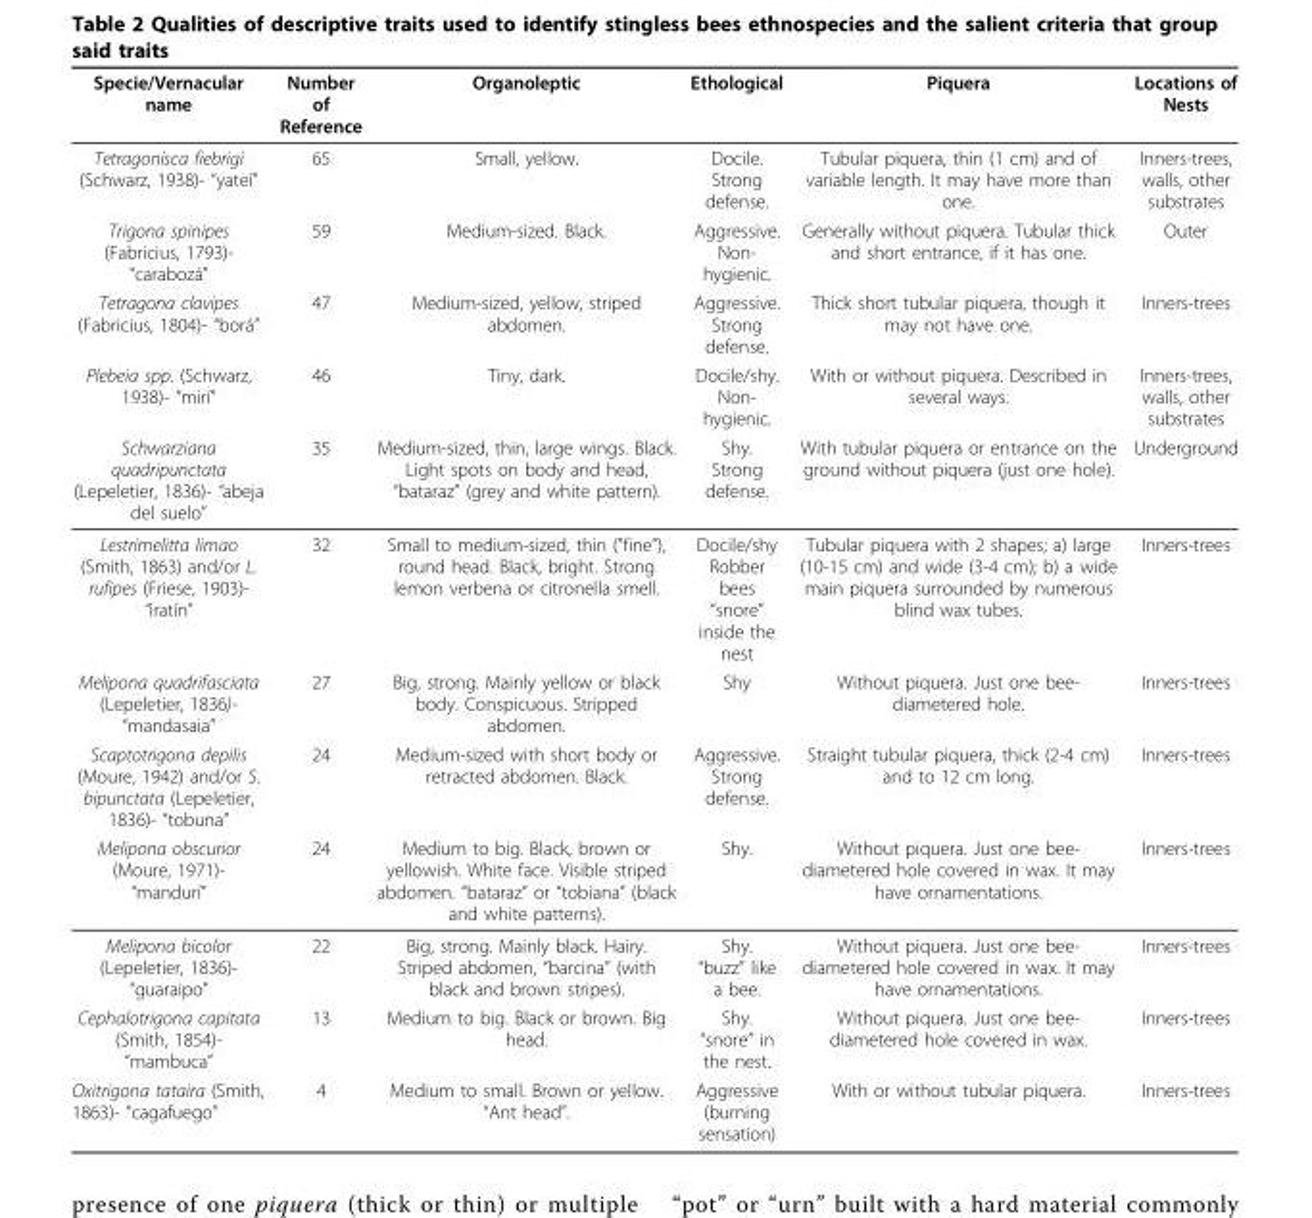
<table><thead><tr><td>Specie/Vernacular name</td><td>Number of Reference</td><td>Organoleptic</td><td>Ethological</td><td>Piquera</td><td>Locations of Nests</td></tr></thead><tbody><tr><td>Tetragonisca fiebrigi (Schwarz, 1938)- “yateí”</td><td>65</td><td>Small, yellow.</td><td>Docile. Strong defense.</td><td>Tubular piquera, thin (1 cm) and of variable length. It may have more than one.</td><td>Inners-trees, walls, other substrates</td></tr><tr><td>Trigona spinipes (Fabricius, 1793)- “carabozá”</td><td>59</td><td>Medium-sized. Black.</td><td>Aggressive. Non- hygienic.</td><td>Generally without piquera. Tubular thick and short entrance, if it has one.</td><td>Outer</td></tr><tr><td>Tetragona clavipes (Fabricius, 1804)- “borá”</td><td>47</td><td>Medium-sized, yellow, striped abdomen.</td><td>Aggressive. Strong defense.</td><td>Thick short tubular piquera, though it may not have one.</td><td>Inners-trees</td></tr><tr><td>Plebeia spp. (Schwarz, 1938)- “mirí”</td><td>46</td><td>Tiny, dark.</td><td>Docile/shy. Non- hygienic.</td><td>With or without piquera. Described in several ways.</td><td>Inners-trees, walls, other substrates</td></tr><tr><td>Schwarziana quadripunctata (Lepeletier, 1836)- “abeja del suelo”</td><td>35</td><td>Medium-sized, thin, large wings. Black. Light spots on body and head, “bataraz” (grey and white pattern).</td><td>Shy. Strong defense.</td><td>With tubular piquera or entrance on the ground without piquera (just one hole).</td><td>Underground</td></tr><tr><td>Lestrimelitta limao (Smith, 1863) and/or L. rufipes (Friese, 1903)- “iratín”</td><td>32</td><td>Small to medium-sized, thin (&quot;fine”), round head. Black, bright. Strong lemon verbena or citronella smell.</td><td>Docile/shy Robber bees “snore” inside the nest</td><td>Tubular piquera with 2 shapes; a) large (10-15 cm) and wide (3-4 cm); b) a wide main piquera surrounded by numerous blind wax tubes.</td><td>Inners-trees</td></tr><tr><td>Melipona quadrifasciata (Lepeletier, 1836)- “mandasaia”</td><td>27</td><td>Big, strong. Mainly yellow or black body. Conspicuous. Stripped abdomen.</td><td>Shy</td><td>Without piquera. Just one bee- diametered hole.</td><td>Inners-trees</td></tr><tr><td>Scaptotrigona depilis (Moure, 1942) and/or S. bipunctata (Lepeletier, 1836)- “tobuna”</td><td>24</td><td>Medium-sized with short body or retracted abdomen. Black.</td><td>Aggressive. Strong defense.</td><td>Straight tubular piquera, thick (2-4 cm) and to 12 cm long.</td><td>Inners-trees</td></tr><tr><td>Melipona obscurior (Moure, 1971)- “mandurí”</td><td>24</td><td>Medium to big. Black, brown or yellowish. White face. Visible striped abdomen. “bataraz” or “tobiana” (black and white patterns).</td><td>Shy.</td><td>Without piquera. Just one bee- diametered hole covered in wax. It may have ornamentations.</td><td>Inners-trees</td></tr><tr><td>Melipona bicolor (Lepeletier, 1836)- “guaraipo”</td><td>22</td><td>Big, strong. Mainly black. Hairy. Striped abdomen, “barcina” (with black and brown stripes).</td><td>Shy. “buzz” like a bee.</td><td>Without piquera. Just one bee- diametered hole covered in wax. It may have ornamentations.</td><td>Inners-trees</td></tr><tr><td>Cephalotrigona capitata (Smith, 1854)- “mambuca”</td><td>13</td><td>Medium to big. Black or brown. Big head.</td><td>Shy. “snore” in the nest.</td><td>Without piquera. Just one bee- diametered hole covered in wax.</td><td>Inners-trees</td></tr><tr><td>Oxitrigona tataira (Smith, 1863)- “cagafuego”</td><td>4</td><td>Medium to small. Brown or yellow. “Ant head”.</td><td>Aggressive (burning sensation)</td><td>With or without tubular piquera.</td><td>Inners-trees</td></tr></tbody></table>